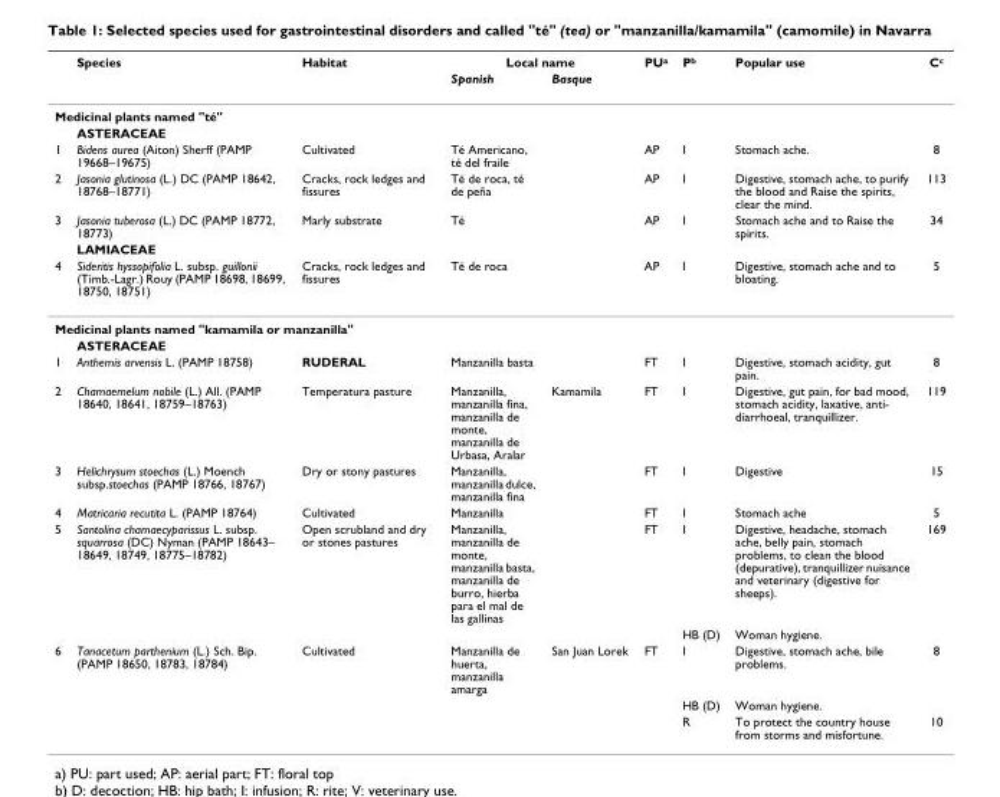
<table><thead><tr><td rowspan="2"></td><td rowspan="2">Species</td><td rowspan="2">Habitat</td><td colspan="2">Local name</td><td rowspan="2">PU<sup>a</sup></td><td rowspan="2">P<sup>b</sup></td><td rowspan="2">Popular use</td><td rowspan="2">C<sup>c</sup></td></tr><tr><td>Spanish</td><td>Basque</td></tr></thead><tbody><tr><td colspan="9">Medicinal plants named &quot;té&quot;</td></tr><tr><td></td><td>ASTERACEAE</td><td></td><td></td><td></td><td></td><td></td><td></td><td></td></tr><tr><td>1</td><td>Bidens aurea (Aiton) Sherff (PAMP 19668–19675)</td><td>Cultivated</td><td>Té Americano, té del fraile</td><td></td><td>AP</td><td>I</td><td>Stomach ache.</td><td>8</td></tr><tr><td>2</td><td>Jasonia glutinosa (L.) DC (PAMP 18642, 18768–18771)</td><td>Cracks, rock ledges and fissures</td><td>Té de roca, té de peña</td><td></td><td>AP</td><td>I</td><td>Digestive, stomach ache, to purify the blood and Raise the spirits, clear the mind.</td><td>113</td></tr><tr><td rowspan="2">3</td><td>Jasonia tuberosa (L.) DC (PAMP 18772, 18773)</td><td>Marly substrate</td><td>Té</td><td></td><td>AP</td><td>I</td><td>Stomach ache and to Raise the spirits.</td><td>34</td></tr><tr><td>LAMIACEAE</td><td></td><td></td><td></td><td></td><td></td><td></td><td></td></tr><tr><td>4</td><td>Sideritis hyssopifolia L. subsp. guillonii (Timb.-Lagr.) Rouy (PAMP 18698, 18699, 18750, 18751)</td><td>Cracks, rock ledges and fissures</td><td>Té de roca</td><td></td><td>AP</td><td>I</td><td>Digestive, stomach ache and to bloating.</td><td>5</td></tr><tr><td colspan="9">Medicinal plants named &quot;kamamila or manzanilla&quot;</td></tr><tr><td></td><td>ASTERACEAE</td><td></td><td></td><td></td><td></td><td></td><td></td><td></td></tr><tr><td>1</td><td>Anthemis arvensis L. (PAMP 18758)</td><td>RUDERAL</td><td>Manzanilla basta</td><td></td><td>FT</td><td>I</td><td>Digestive, stomach acidity, gut pain.</td><td>8</td></tr><tr><td>2</td><td>Chamaemelum nobile (L.) All. (PAMP 18640, 18641, 18759–18763)</td><td>Temperatura pasture</td><td>Manzanilla, manzanilla fina, manzanilla de monte, manzanilla de Urbasa, Aralar</td><td>Kamamila</td><td>FT</td><td>I</td><td>Digestive, gut pain, for bad mood, stomach acidity, laxative, anti- diarrhoeal, tranquillizer.</td><td>119</td></tr><tr><td>3</td><td>Helichrysum stoechas (L.) Moench subsp.stoechas (PAMP 18766, 18767)</td><td>Dry or stony pastures</td><td>Manzanilla, manzanilla dulce, manzanilla fina</td><td></td><td>FT</td><td>I</td><td>Digestive</td><td>15</td></tr><tr><td>4</td><td>Matricaria recutita L. (PAMP 18764)</td><td>Cultivated</td><td>Manzanilla</td><td></td><td>FT</td><td>I</td><td>Stomach ache</td><td>5</td></tr><tr><td rowspan="2">5</td><td>Santolina chamaecyparissus L. subsp. squarrosa (DC) Nyman (PAMP 18643– 18649, 18749, 18775–18782)</td><td>Open scrubland and dry or stones pastures</td><td>Manzanilla, manzanilla de monte, manzanilla basta, manzanilla de burro, hierba para el mal de las gallinas</td><td></td><td>FT</td><td>I</td><td>Digestive, headache, stomach ache, belly pain, stomach problems, to clean the blood (depurative), tranquillizer nuisance and veterinary (digestive for sheeps).</td><td>169</td></tr><tr><td></td><td></td><td></td><td></td><td></td><td>HB (D)</td><td>Woman hygiene.</td><td></td></tr><tr><td rowspan="3">6</td><td>Tanacetum parthenium (L.) Sch. Bip. (PAMP 18650, 18783, 18784)</td><td>Cultivated</td><td>Manzanilla de huerta, manzanilla amarga</td><td>San Juan Lorek</td><td>FT</td><td>I</td><td>Digestive, stomach ache, bile problems.</td><td>8</td></tr><tr><td></td><td></td><td></td><td></td><td></td><td>HB (D)</td><td>Woman hygiene.</td><td></td></tr><tr><td></td><td></td><td></td><td></td><td></td><td>R</td><td>To protect the country house from storms and misfortune.</td><td>10</td></tr></tbody></table>